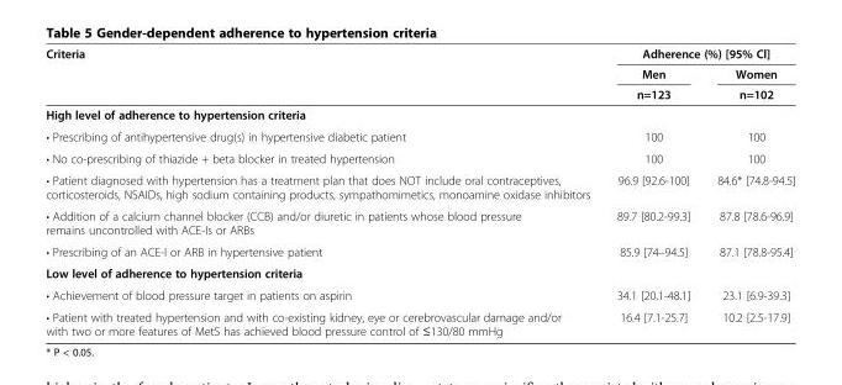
<table><thead><tr><td rowspan="3">Criteria</td><td colspan="2">Adherence (%) [95% Cl]</td></tr><tr><td rowspan="2">Men n=123</td><td rowspan="2">Women n=102</td></tr><tr></tr></thead><tbody><tr><td colspan="3">High level of adherence to hypertension criteria</td></tr><tr><td>• Prescribing of antihypertensive drug(s) in hypertensive diabetic patient</td><td>100</td><td>100</td></tr><tr><td>• No co-prescribing of thiazide + beta blocker in treated hypertension</td><td>100</td><td>100</td></tr><tr><td>• Patient diagnosed with hypertension has a treatment plan that does NOT include oral contraceptives, corticosteroids, NSAIDs, high sodium containing products, sympathomimetics, monoamine oxidase inhibitors</td><td>96.9 [92.6-100]</td><td>84.6* [74.8-94.5]</td></tr><tr><td>• Addition of a calcium channel blocker (CCB) and/or diuretic in patients whose blood pressure remains uncontrolled with ACE-Is or ARBs</td><td>89.7 [80.2-99.3]</td><td>87.8 [78.6-96.9]</td></tr><tr><td>• Prescribing of an ACE-I or ARB in hypertensive patient</td><td>85.9 [74–94.5]</td><td>87.1 [78.8-95.4]</td></tr><tr><td colspan="3">Low level of adherence to hypertension criteria</td></tr><tr><td>• Achievement of blood pressure target in patients on aspirin</td><td>34.1 [20.1-48.1]</td><td>23.1 [6.9-39.3]</td></tr><tr><td>• Patient with treated hypertension and with co-existing kidney, eye or cerebrovascular damage and/or with two or more features of MetS has achieved blood pressure control of ≤130/80 mmHg</td><td>16.4 [7.1-25.7]</td><td>10.2 [2.5-17.9]</td></tr></tbody></table>